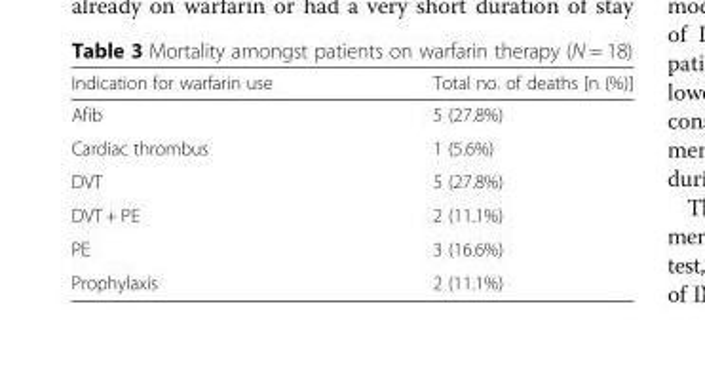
<table><thead><tr><td>Indication for warfarin use</td><td>Total no. of deaths [n (%)]</td></tr></thead><tbody><tr><td>Afib</td><td>5 (27.8%)</td></tr><tr><td>Cardiac thrombus</td><td>1 (5.6%)</td></tr><tr><td>DVT</td><td>5 (27.8%)</td></tr><tr><td>DVT + PE</td><td>2 (11.1%)</td></tr><tr><td>PE</td><td>3 (16.6%)</td></tr><tr><td>Prophylaxis</td><td>2 (11.1%)</td></tr></tbody></table>